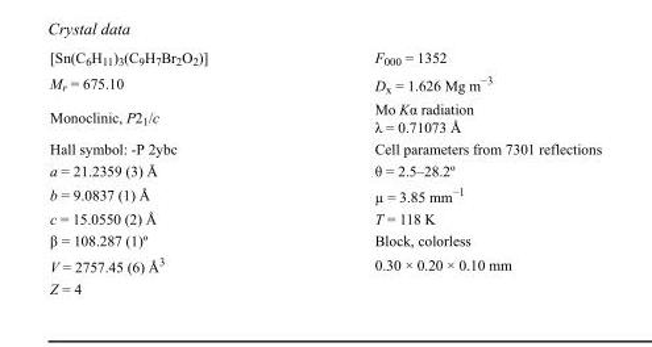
<table><tbody><tr><td>[Sn(C<sub>6</sub>H<sub>11</sub>)<sub>3</sub>(C<sub>9</sub>H<sub>7</sub>Br<sub>2</sub>O<sub>2</sub>)]</td><td>F000 = 1352</td></tr><tr><td>M<sub>r</sub> = 675.10</td><td>D<sub>x</sub> = 1.626 Mg m<sup>−3</sup></td></tr><tr><td>Monoclinic, P2<sub>1</sub>/c</td><td>Mo Kα radiation λ = 0.71073 Å</td></tr><tr><td>Hall symbol: -P 2ybc</td><td>Cell parameters from 7301 reflections</td></tr><tr><td>a = 21.2359 (3) Å</td><td>θ = 2.5–28.2º</td></tr><tr><td>b = 9.0837 (1) Å</td><td>µ = 3.85 mm<sup>−1</sup></td></tr><tr><td>c = 15.0550 (2) Å</td><td>T = 118 K</td></tr><tr><td>β = 108.287 (1)º</td><td>Block, colorless</td></tr><tr><td>V = 2757.45 (6) Å<sup>3</sup></td><td>0.30 × 0.20 × 0.10 mm</td></tr><tr><td>Z = 4</td><td></td></tr></tbody></table>